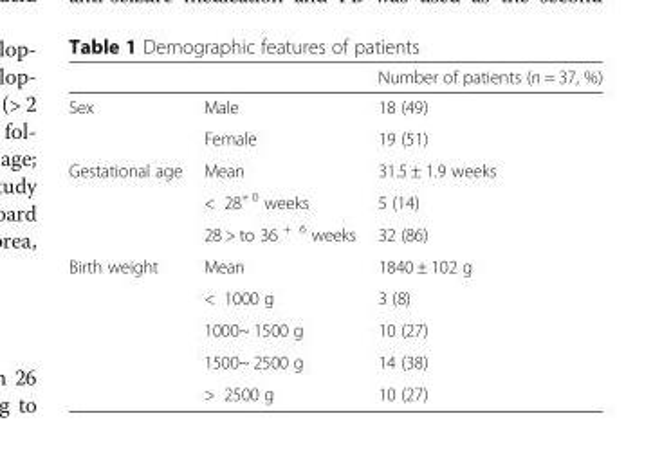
<table><thead><tr><td></td><td></td><td>Number of patients (n = 37, %)</td></tr></thead><tbody><tr><td rowspan="2">Sex</td><td>Male</td><td>18 (49)</td></tr><tr><td>Female</td><td>19 (51)</td></tr><tr><td rowspan="3">Gestational age</td><td>Mean</td><td>31.5 ± 1.9 weeks</td></tr><tr><td>&lt; 28<sup>+ 0</sup> weeks</td><td>5 (14)</td></tr><tr><td>28 &gt; to 36 <sup>+ 6</sup> weeks</td><td>32 (86)</td></tr><tr><td rowspan="5">Birth weight</td><td>Mean</td><td>1840 ± 102 g</td></tr><tr><td>&lt; 1000 g</td><td>3 (8)</td></tr><tr><td>1000~ 1500 g</td><td>10 (27)</td></tr><tr><td>1500~ 2500 g</td><td>14 (38)</td></tr><tr><td>&gt; 2500 g</td><td>10 (27)</td></tr></tbody></table>